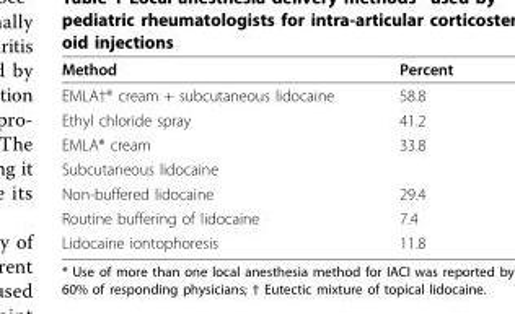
<table><thead><tr><td>Method</td><td>Percent</td></tr></thead><tbody><tr><td>EMLA†<sup>®</sup> cream + subcutaneous lidocaine</td><td>58.8</td></tr><tr><td>Ethyl chloride spray</td><td>41.2</td></tr><tr><td>EMLA<sup>®</sup> cream</td><td>33.8</td></tr><tr><td colspan="2">Subcutaneous lidocaine</td></tr><tr><td>Non-buffered lidocaine</td><td>29.4</td></tr><tr><td>Routine buffering of lidocaine</td><td>7.4</td></tr><tr><td>Lidocaine iontophoresis</td><td>11.8</td></tr></tbody></table>